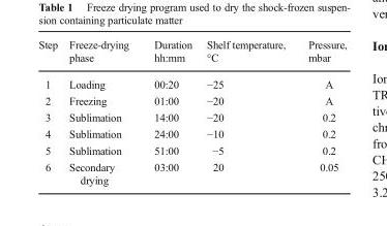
<table><thead><tr><td>Step</td><td>Freeze-drying phase</td><td>Duration hh:mm</td><td>Shelf temperature, °C</td><td>Pressure, mbar</td></tr></thead><tbody><tr><td>1</td><td>Loading</td><td>00:20</td><td>−25</td><td>A</td></tr><tr><td>2</td><td>Freezing</td><td>01:00</td><td>−20</td><td>A</td></tr><tr><td>3</td><td>Sublimation</td><td>14:00</td><td>−20</td><td>0.2</td></tr><tr><td>4</td><td>Sublimation</td><td>24:00</td><td>−10</td><td>0.2</td></tr><tr><td>5</td><td>Sublimation</td><td>51:00</td><td>−5</td><td>0.2</td></tr><tr><td>6</td><td>Secondary drying</td><td>03:00</td><td>20</td><td>0.05</td></tr></tbody></table>